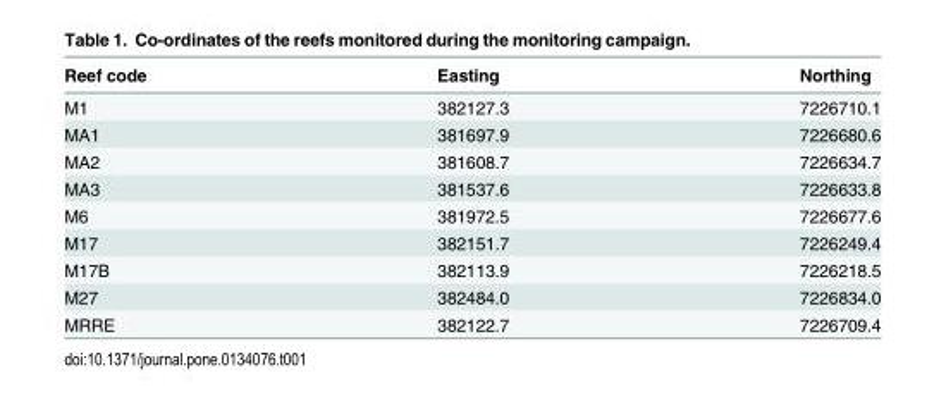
<table><thead><tr><td>Reef code</td><td>Easting</td><td>Northing</td></tr></thead><tbody><tr><td>M1</td><td>382127.3</td><td>7226710.1</td></tr><tr><td>MA1</td><td>381697.9</td><td>7226680.6</td></tr><tr><td>MA2</td><td>381608.7</td><td>7226634.7</td></tr><tr><td>MA3</td><td>381537.6</td><td>7226633.8</td></tr><tr><td>M6</td><td>381972.5</td><td>7226677.6</td></tr><tr><td>M17</td><td>382151.7</td><td>7226249.4</td></tr><tr><td>M17B</td><td>382113.9</td><td>7226218.5</td></tr><tr><td>M27</td><td>382484.0</td><td>7226834.0</td></tr><tr><td>MRRE</td><td>382122.7</td><td>7226709.4</td></tr></tbody></table>